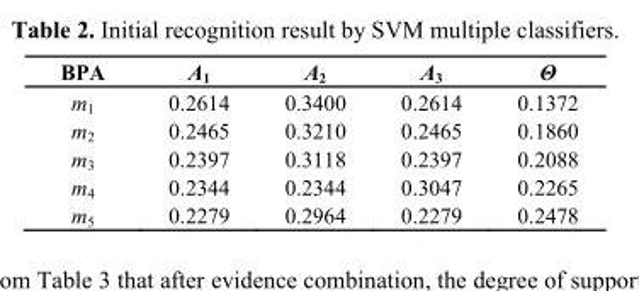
<table><thead><tr><td>BPA</td><td>A<sub>1</sub></td><td>A<sub>2</sub></td><td>A<sub>3</sub></td><td>Θ</td></tr></thead><tbody><tr><td>m<sub>1</sub></td><td>0.2614</td><td>0.3400</td><td>0.2614</td><td>0.1372</td></tr><tr><td>m<sub>2</sub></td><td>0.2465</td><td>0.3210</td><td>0.2465</td><td>0.1860</td></tr><tr><td>m<sub>3</sub></td><td>0.2397</td><td>0.3118</td><td>0.2397</td><td>0.2088</td></tr><tr><td>m<sub>4</sub></td><td>0.2344</td><td>0.2344</td><td>0.3047</td><td>0.2265</td></tr><tr><td>m<sub>5</sub></td><td>0.2279</td><td>0.2964</td><td>0.2279</td><td>0.2478</td></tr></tbody></table>